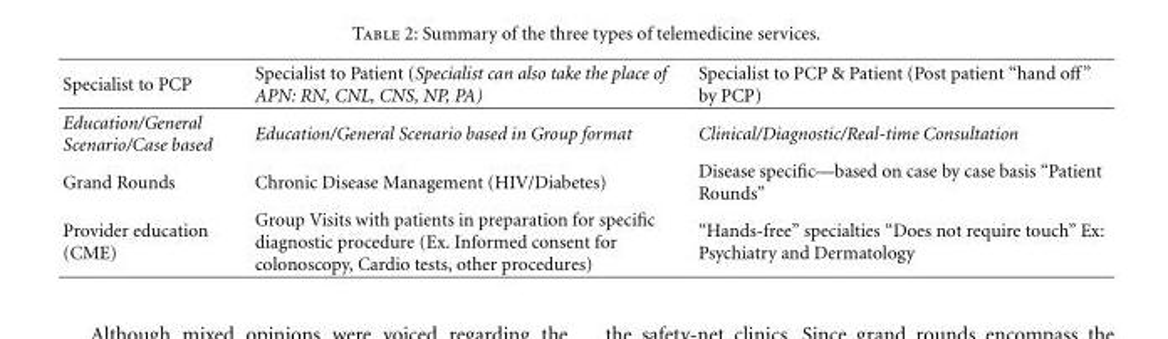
<table><thead><tr><td>Specialist to PCP</td><td>Specialist to Patient (Specialist can also take the place of APN: RN, CNL, CNS, NP, PA)</td><td>Specialist to PCP &amp; Patient (Post patient “hand off” by PCP)</td></tr></thead><tbody><tr><td>Education/General Scenario/Case based</td><td>Education/General Scenario based in Group format</td><td>Clinical/Diagnostic/Real-time Consultation</td></tr><tr><td>Grand Rounds</td><td>Chronic Disease Management (HIV/Diabetes)</td><td>Disease specific—based on case by case basis “Patient Rounds”</td></tr><tr><td>Provider education (CME)</td><td>Group Visits with patients in preparation for specific diagnostic procedure (Ex. Informed consent for colonoscopy, Cardio tests, other procedures)</td><td>“Hands-free” specialties “Does not require touch” Ex: Psychiatry and Dermatology</td></tr></tbody></table>